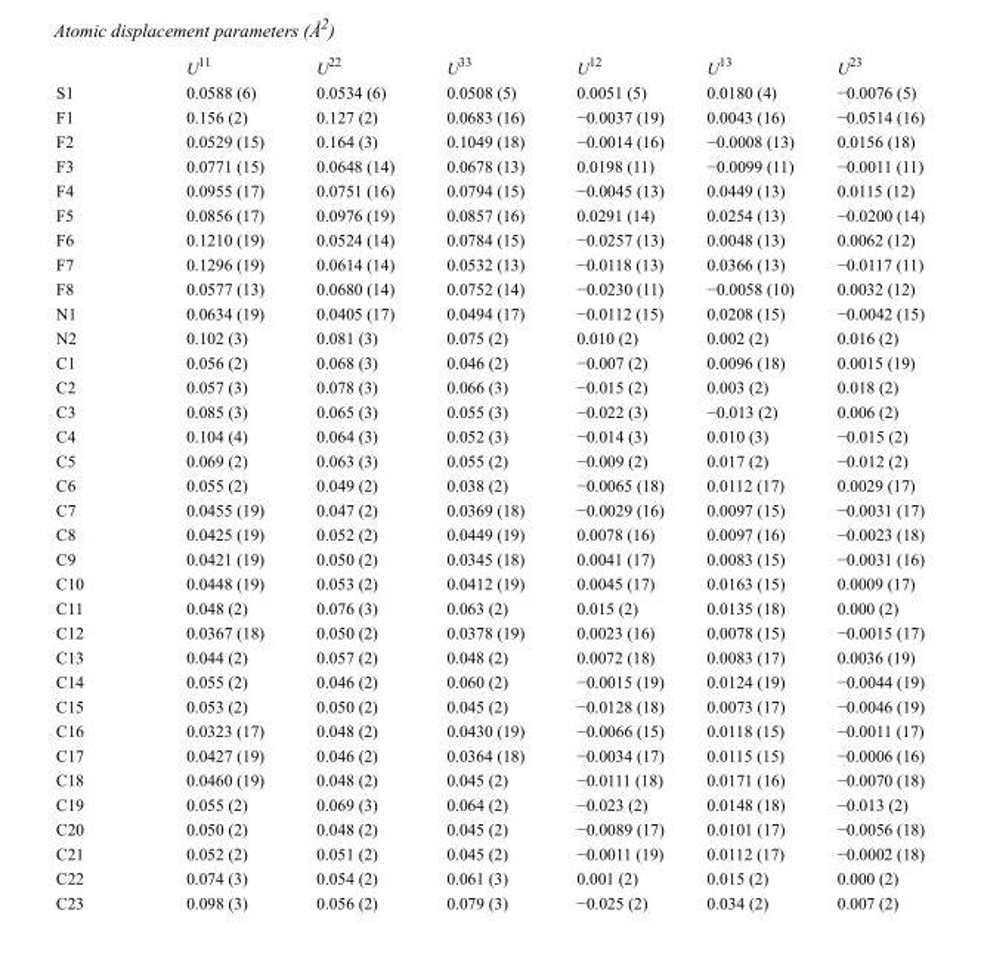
<table><thead><tr><td></td><td>U<sup>11</sup></td><td>U<sup>22</sup></td><td>U<sup>33</sup></td><td>U<sup>12</sup></td><td>U<sup>13</sup></td><td>U<sup>23</sup></td></tr></thead><tbody><tr><td>S1</td><td>0.0588 (6)</td><td>0.0534 (6)</td><td>0.0508 (5)</td><td>0.0051 (5)</td><td>0.0180 (4)</td><td>−0.0076 (5)</td></tr><tr><td>F1</td><td>0.156 (2)</td><td>0.127 (2)</td><td>0.0683 (16)</td><td>−0.0037 (19)</td><td>0.0043 (16)</td><td>−0.0514 (16)</td></tr><tr><td>F2</td><td>0.0529 (15)</td><td>0.164 (3)</td><td>0.1049 (18)</td><td>−0.0014 (16)</td><td>−0.0008 (13)</td><td>0.0156 (18)</td></tr><tr><td>F3</td><td>0.0771 (15)</td><td>0.0648 (14)</td><td>0.0678 (13)</td><td>0.0198 (11)</td><td>−0.0099 (11)</td><td>−0.0011 (11)</td></tr><tr><td>F4</td><td>0.0955 (17)</td><td>0.0751 (16)</td><td>0.0794 (15)</td><td>−0.0045 (13)</td><td>0.0449 (13)</td><td>0.0115 (12)</td></tr><tr><td>F5</td><td>0.0856 (17)</td><td>0.0976 (19)</td><td>0.0857 (16)</td><td>0.0291 (14)</td><td>0.0254 (13)</td><td>−0.0200 (14)</td></tr><tr><td>F6</td><td>0.1210 (19)</td><td>0.0524 (14)</td><td>0.0784 (15)</td><td>−0.0257 (13)</td><td>0.0048 (13)</td><td>0.0062 (12)</td></tr><tr><td>F7</td><td>0.1296 (19)</td><td>0.0614 (14)</td><td>0.0532 (13)</td><td>−0.0118 (13)</td><td>0.0366 (13)</td><td>−0.0117 (11)</td></tr><tr><td>F8</td><td>0.0577 (13)</td><td>0.0680 (14)</td><td>0.0752 (14)</td><td>−0.0230 (11)</td><td>−0.0058 (10)</td><td>0.0032 (12)</td></tr><tr><td>N1</td><td>0.0634 (19)</td><td>0.0405 (17)</td><td>0.0494 (17)</td><td>−0.0112 (15)</td><td>0.0208 (15)</td><td>−0.0042 (15)</td></tr><tr><td>N2</td><td>0.102 (3)</td><td>0.081 (3)</td><td>0.075 (2)</td><td>0.010 (2)</td><td>0.002 (2)</td><td>0.016 (2)</td></tr><tr><td>C1</td><td>0.056 (2)</td><td>0.068 (3)</td><td>0.046 (2)</td><td>−0.007 (2)</td><td>0.0096 (18)</td><td>0.0015 (19)</td></tr><tr><td>C2</td><td>0.057 (3)</td><td>0.078 (3)</td><td>0.066 (3)</td><td>−0.015 (2)</td><td>0.003 (2)</td><td>0.018 (2)</td></tr><tr><td>C3</td><td>0.085 (3)</td><td>0.065 (3)</td><td>0.055 (3)</td><td>−0.022 (3)</td><td>−0.013 (2)</td><td>0.006 (2)</td></tr><tr><td>C4</td><td>0.104 (4)</td><td>0.064 (3)</td><td>0.052 (3)</td><td>−0.014 (3)</td><td>0.010 (3)</td><td>−0.015 (2)</td></tr><tr><td>C5</td><td>0.069 (2)</td><td>0.063 (3)</td><td>0.055 (2)</td><td>−0.009 (2)</td><td>0.017 (2)</td><td>−0.012 (2)</td></tr><tr><td>C6</td><td>0.055 (2)</td><td>0.049 (2)</td><td>0.038 (2)</td><td>−0.0065 (18)</td><td>0.0112 (17)</td><td>0.0029 (17)</td></tr><tr><td>C7</td><td>0.0455 (19)</td><td>0.047 (2)</td><td>0.0369 (18)</td><td>−0.0029 (16)</td><td>0.0097 (15)</td><td>−0.0031 (17)</td></tr><tr><td>C8</td><td>0.0425 (19)</td><td>0.052 (2)</td><td>0.0449 (19)</td><td>0.0078 (16)</td><td>0.0097 (16)</td><td>−0.0023 (18)</td></tr><tr><td>C9</td><td>0.0421 (19)</td><td>0.050 (2)</td><td>0.0345 (18)</td><td>0.0041 (17)</td><td>0.0083 (15)</td><td>−0.0031 (16)</td></tr><tr><td>C10</td><td>0.0448 (19)</td><td>0.053 (2)</td><td>0.0412 (19)</td><td>0.0045 (17)</td><td>0.0163 (15)</td><td>0.0009 (17)</td></tr><tr><td>C11</td><td>0.048 (2)</td><td>0.076 (3)</td><td>0.063 (2)</td><td>0.015 (2)</td><td>0.0135 (18)</td><td>0.000 (2)</td></tr><tr><td>C12</td><td>0.0367 (18)</td><td>0.050 (2)</td><td>0.0378 (19)</td><td>0.0023 (16)</td><td>0.0078 (15)</td><td>−0.0015 (17)</td></tr><tr><td>C13</td><td>0.044 (2)</td><td>0.057 (2)</td><td>0.048 (2)</td><td>0.0072 (18)</td><td>0.0083 (17)</td><td>0.0036 (19)</td></tr><tr><td>C14</td><td>0.055 (2)</td><td>0.046 (2)</td><td>0.060 (2)</td><td>−0.0015 (19)</td><td>0.0124 (19)</td><td>−0.0044 (19)</td></tr><tr><td>C15</td><td>0.053 (2)</td><td>0.050 (2)</td><td>0.045 (2)</td><td>−0.0128 (18)</td><td>0.0073 (17)</td><td>−0.0046 (19)</td></tr><tr><td>C16</td><td>0.0323 (17)</td><td>0.048 (2)</td><td>0.0430 (19)</td><td>−0.0066 (15)</td><td>0.0118 (15)</td><td>−0.0011 (17)</td></tr><tr><td>C17</td><td>0.0427 (19)</td><td>0.046 (2)</td><td>0.0364 (18)</td><td>−0.0034 (17)</td><td>0.0115 (15)</td><td>−0.0006 (16)</td></tr><tr><td>C18</td><td>0.0460 (19)</td><td>0.048 (2)</td><td>0.045 (2)</td><td>−0.0111 (18)</td><td>0.0171 (16)</td><td>−0.0070 (18)</td></tr><tr><td>C19</td><td>0.055 (2)</td><td>0.069 (3)</td><td>0.064 (2)</td><td>−0.023 (2)</td><td>0.0148 (18)</td><td>−0.013 (2)</td></tr><tr><td>C20</td><td>0.050 (2)</td><td>0.048 (2)</td><td>0.045 (2)</td><td>−0.0089 (17)</td><td>0.0101 (17)</td><td>−0.0056 (18)</td></tr><tr><td>C21</td><td>0.052 (2)</td><td>0.051 (2)</td><td>0.045 (2)</td><td>−0.0011 (19)</td><td>0.0112 (17)</td><td>−0.0002 (18)</td></tr><tr><td>C22</td><td>0.074 (3)</td><td>0.054 (2)</td><td>0.061 (3)</td><td>0.001 (2)</td><td>0.015 (2)</td><td>0.000 (2)</td></tr><tr><td>C23</td><td>0.098 (3)</td><td>0.056 (2)</td><td>0.079 (3)</td><td>−0.025 (2)</td><td>0.034 (2)</td><td>0.007 (2)</td></tr></tbody></table>